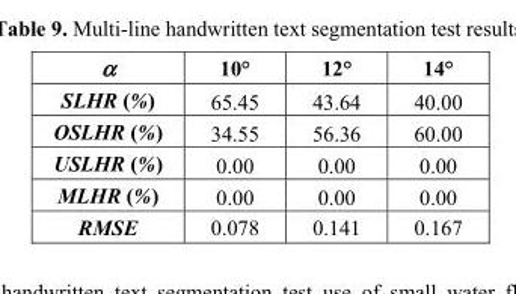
<table><thead><tr><td>α</td><td>10°</td><td>12°</td><td>14°</td></tr></thead><tbody><tr><td>SLHR (%)</td><td>65.45</td><td>43.64</td><td>40.00</td></tr><tr><td>OSLHR (%)</td><td>34.55</td><td>56.36</td><td>60.00</td></tr><tr><td>USLHR (%)</td><td>0.00</td><td>0.00</td><td>0.00</td></tr><tr><td>MLHR (%)</td><td>0.00</td><td>0.00</td><td>0.00</td></tr><tr><td>RMSE</td><td>0.078</td><td>0.141</td><td>0.167</td></tr></tbody></table>